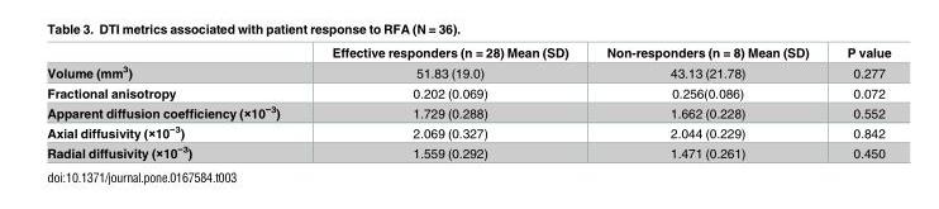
<table><thead><tr><td></td><td>Effective responders (n = 28) Mean (SD)</td><td>Non-responders (n = 8) Mean (SD)</td><td>P value</td></tr></thead><tbody><tr><td>Volume (mm<sup>3</sup>)</td><td>51.83 (19.0)</td><td>43.13 (21.78)</td><td>0.277</td></tr><tr><td>Fractional anisotropy</td><td>0.202 (0.069)</td><td>0.256(0.086)</td><td>0.072</td></tr><tr><td>Apparent diffusion coefficiency (×10<sup>−3</sup>)</td><td>1.729 (0.288)</td><td>1.662 (0.228)</td><td>0.552</td></tr><tr><td>Axial diffusivity (×10<sup>−3</sup>)</td><td>2.069 (0.327)</td><td>2.044 (0.229)</td><td>0.842</td></tr><tr><td>Radial diffusivity (×10<sup>−3</sup>)</td><td>1.559 (0.292)</td><td>1.471 (0.261)</td><td>0.450</td></tr></tbody></table>